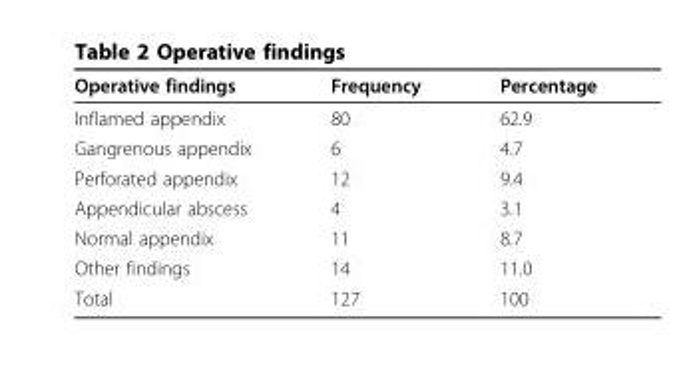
<table><thead><tr><td>Operative findings</td><td>Frequency</td><td>Percentage</td></tr></thead><tbody><tr><td>Inflamed appendix</td><td>80</td><td>62.9</td></tr><tr><td>Gangrenous appendix</td><td>6</td><td>4.7</td></tr><tr><td>Perforated appendix</td><td>12</td><td>9.4</td></tr><tr><td>Appendicular abscess</td><td>4</td><td>3.1</td></tr><tr><td>Normal appendix</td><td>11</td><td>8.7</td></tr><tr><td>Other findings</td><td>14</td><td>11.0</td></tr><tr><td>Total</td><td>127</td><td>100</td></tr></tbody></table>